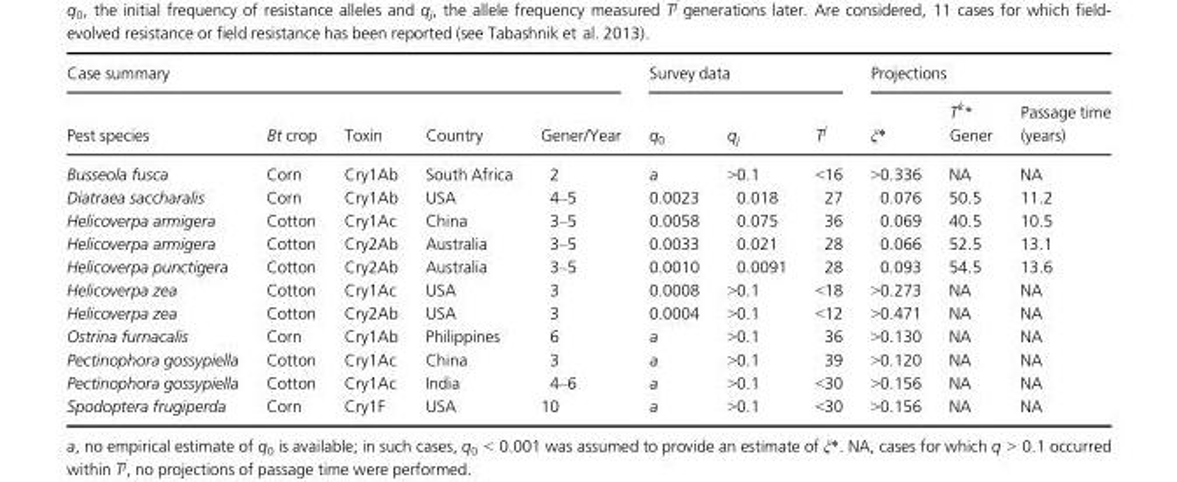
<table><thead><tr><td colspan="5">Case summary</td><td colspan="3">Survey data</td><td colspan="3">Projections</td></tr><tr><td>Pest species</td><td>Bt crop</td><td>Toxin</td><td>Country</td><td>Gener/Year</td><td>q<sub>0</sub></td><td>q<sub>j</sub></td><td>T<sup>j</sup></td><td>ξ*</td><td>T<sup>k</sup>* Gener</td><td>Passage time (years)</td></tr></thead><tbody><tr><td>Busseola fusca</td><td>Corn</td><td>Cry1Ab</td><td>South Africa</td><td>2</td><td>a</td><td>&gt;0.1</td><td>&lt;16</td><td>&gt;0.336</td><td>NA</td><td>NA</td></tr><tr><td>Diatraea saccharalis</td><td>Corn</td><td>Cry1Ab</td><td>USA</td><td>4–5</td><td>0.0023</td><td>0.018</td><td>27</td><td>0.076</td><td>50.5</td><td>11.2</td></tr><tr><td>Helicoverpa armigera</td><td>Cotton</td><td>Cry1Ac</td><td>China</td><td>3–5</td><td>0.0058</td><td>0.075</td><td>36</td><td>0.069</td><td>40.5</td><td>10.5</td></tr><tr><td>Helicoverpa armigera</td><td>Cotton</td><td>Cry2Ab</td><td>Australia</td><td>3–5</td><td>0.0033</td><td>0.021</td><td>28</td><td>0.066</td><td>52.5</td><td>13.1</td></tr><tr><td>Helicoverpa punctigera</td><td>Cotton</td><td>Cry2Ab</td><td>Australia</td><td>3–5</td><td>0.0010</td><td>0.0091</td><td>28</td><td>0.093</td><td>54.5</td><td>13.6</td></tr><tr><td>Helicoverpa zea</td><td>Cotton</td><td>Cry1Ac</td><td>USA</td><td>3</td><td>0.0008</td><td>&gt;0.1</td><td>&lt;18</td><td>&gt;0.273</td><td>NA</td><td>NA</td></tr><tr><td>Helicoverpa zea</td><td>Cotton</td><td>Cry2Ab</td><td>USA</td><td>3</td><td>0.0004</td><td>&gt;0.1</td><td>&lt;12</td><td>&gt;0.471</td><td>NA</td><td>NA</td></tr><tr><td>Ostrina furnacalis</td><td>Corn</td><td>Cry1Ab</td><td>Philippines</td><td>6</td><td>a</td><td>&gt;0.1</td><td>36</td><td>&gt;0.130</td><td>NA</td><td>NA</td></tr><tr><td>Pectinophora gossypiella</td><td>Cotton</td><td>Cry1Ac</td><td>China</td><td>3</td><td>a</td><td>&gt;0.1</td><td>39</td><td>&gt;0.120</td><td>NA</td><td>NA</td></tr><tr><td>Pectinophora gossypiella</td><td>Cotton</td><td>Cry1Ac</td><td>India</td><td>4–6</td><td>a</td><td>&gt;0.1</td><td>&lt;30</td><td>&gt;0.156</td><td>NA</td><td>NA</td></tr><tr><td>Spodoptera frugiperda</td><td>Corn</td><td>Cry1F</td><td>USA</td><td>10</td><td>a</td><td>&gt;0.1</td><td>&lt;30</td><td>&gt;0.156</td><td>NA</td><td>NA</td></tr></tbody></table>